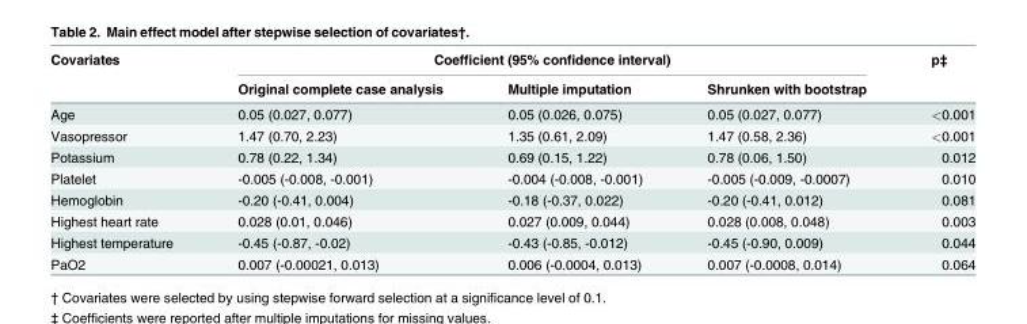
<table><thead><tr><td rowspan="2">Covariates</td><td colspan="3">Coefficient (95% confidence interval)</td><td rowspan="2">p‡</td></tr><tr><td>Original complete case analysis</td><td>Multiple imputation</td><td>Shrunken with bootstrap</td></tr></thead><tbody><tr><td>Age</td><td>0.05 (0.027, 0.077)</td><td>0.05 (0.026, 0.075)</td><td>0.05 (0.027, 0.077)</td><td>&lt;0.001</td></tr><tr><td>Vasopressor</td><td>1.47 (0.70, 2.23)</td><td>1.35 (0.61, 2.09)</td><td>1.47 (0.58, 2.36)</td><td>&lt;0.001</td></tr><tr><td>Potassium</td><td>0.78 (0.22, 1.34)</td><td>0.69 (0.15, 1.22)</td><td>0.78 (0.06, 1.50)</td><td>0.012</td></tr><tr><td>Platelet</td><td>-0.005 (-0.008, -0.001)</td><td>-0.004 (-0.008, -0.001)</td><td>-0.005 (-0.009, -0.0007)</td><td>0.010</td></tr><tr><td>Hemoglobin</td><td>-0.20 (-0.41, 0.004)</td><td>-0.18 (-0.37, 0.022)</td><td>-0.20 (-0.41, 0.012)</td><td>0.081</td></tr><tr><td>Highest heart rate</td><td>0.028 (0.01, 0.046)</td><td>0.027 (0.009, 0.044)</td><td>0.028 (0.008, 0.048)</td><td>0.003</td></tr><tr><td>Highest temperature</td><td>-0.45 (-0.87, -0.02)</td><td>-0.43 (-0.85, -0.012)</td><td>-0.45 (-0.90, 0.009)</td><td>0.044</td></tr><tr><td>PaO2</td><td>0.007 (-0.00021, 0.013)</td><td>0.006 (-0.0004, 0.013)</td><td>0.007 (-0.0008, 0.014)</td><td>0.064</td></tr></tbody></table>